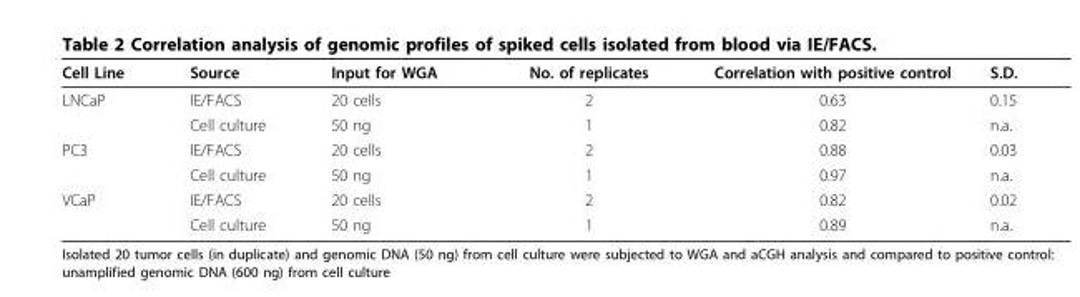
<table><thead><tr><td>Cell Line</td><td>Source</td><td>Input for WGA</td><td>No. of replicates</td><td>Correlation with positive control</td><td>S.D.</td></tr></thead><tbody><tr><td rowspan="2">LNCaP</td><td>IE/FACS</td><td>20 cells</td><td>2</td><td>0.63</td><td>0.15</td></tr><tr><td>Cell culture</td><td>50 ng</td><td>1</td><td>0.82</td><td>n.a.</td></tr><tr><td rowspan="2">PC3</td><td>IE/FACS</td><td>20 cells</td><td>2</td><td>0.88</td><td>0.03</td></tr><tr><td>Cell culture</td><td>50 ng</td><td>1</td><td>0.97</td><td>n.a.</td></tr><tr><td rowspan="2">VCaP</td><td>IE/FACS</td><td>20 cells</td><td>2</td><td>0.82</td><td>0.02</td></tr><tr><td>Cell culture</td><td>50 ng</td><td>1</td><td>0.89</td><td>n.a.</td></tr></tbody></table>